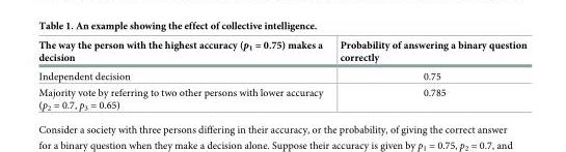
<table><thead><tr><td>The way the person with the highest accuracy (p<sub>1</sub> = 0.75) makes a decision</td><td>Probability of answering a binary question correctly</td></tr></thead><tbody><tr><td>Independent decision</td><td>0.75</td></tr><tr><td>Majority vote by referring to two other persons with lower accuracy (p<sub>2</sub> = 0.7, p<sub>3</sub> = 0.65)</td><td>0.785</td></tr></tbody></table>